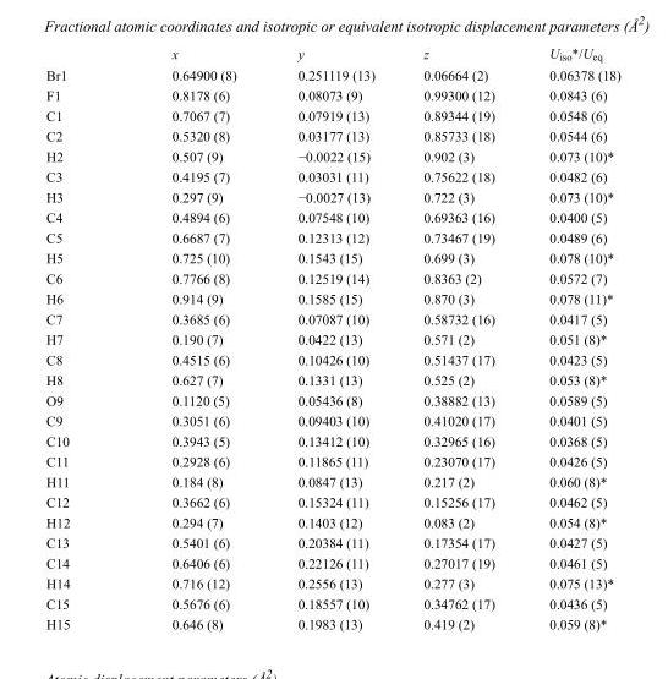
<table><thead><tr><td></td><td>x</td><td>y</td><td>z</td><td>U<sub>iso</sub>*/U<sub>eq</sub></td></tr></thead><tbody><tr><td>Br1</td><td>0.64900 (8)</td><td>0.251119 (13)</td><td>0.06664 (2)</td><td>0.06378 (18)</td></tr><tr><td>F1</td><td>0.8178 (6)</td><td>0.08073 (9)</td><td>0.99300 (12)</td><td>0.0843 (6)</td></tr><tr><td>C1</td><td>0.7067 (7)</td><td>0.07919 (13)</td><td>0.89344 (19)</td><td>0.0548 (6)</td></tr><tr><td>C2</td><td>0.5320 (8)</td><td>0.03177 (13)</td><td>0.85733 (18)</td><td>0.0544 (6)</td></tr><tr><td>H2</td><td>0.507 (9)</td><td>−0.0022 (15)</td><td>0.902 (3)</td><td>0.073 (10)*</td></tr><tr><td>C3</td><td>0.4195 (7)</td><td>0.03031 (11)</td><td>0.75622 (18)</td><td>0.0482 (6)</td></tr><tr><td>H3</td><td>0.297 (9)</td><td>−0.0027 (13)</td><td>0.722 (3)</td><td>0.073 (10)*</td></tr><tr><td>C4</td><td>0.4894 (6)</td><td>0.07548 (10)</td><td>0.69363 (16)</td><td>0.0400 (5)</td></tr><tr><td>C5</td><td>0.6687 (7)</td><td>0.12313 (12)</td><td>0.73467 (19)</td><td>0.0489 (6)</td></tr><tr><td>H5</td><td>0.725 (10)</td><td>0.1543 (15)</td><td>0.699 (3)</td><td>0.078 (10)*</td></tr><tr><td>C6</td><td>0.7766 (8)</td><td>0.12519 (14)</td><td>0.8363 (2)</td><td>0.0572 (7)</td></tr><tr><td>H6</td><td>0.914 (9)</td><td>0.1585 (15)</td><td>0.870 (3)</td><td>0.078 (11)*</td></tr><tr><td>C7</td><td>0.3685 (6)</td><td>0.07087 (10)</td><td>0.58732 (16)</td><td>0.0417 (5)</td></tr><tr><td>H7</td><td>0.190 (7)</td><td>0.0422 (13)</td><td>0.571 (2)</td><td>0.051 (8)*</td></tr><tr><td>C8</td><td>0.4515 (6)</td><td>0.10426 (10)</td><td>0.51437 (17)</td><td>0.0423 (5)</td></tr><tr><td>H8</td><td>0.627 (7)</td><td>0.1331 (13)</td><td>0.525 (2)</td><td>0.053 (8)*</td></tr><tr><td>O9</td><td>0.1120 (5)</td><td>0.05436 (8)</td><td>0.38882 (13)</td><td>0.0589 (5)</td></tr><tr><td>C9</td><td>0.3051 (6)</td><td>0.09403 (10)</td><td>0.41020 (17)</td><td>0.0401 (5)</td></tr><tr><td>C10</td><td>0.3943 (5)</td><td>0.13412 (10)</td><td>0.32965 (16)</td><td>0.0368 (5)</td></tr><tr><td>C11</td><td>0.2928 (6)</td><td>0.11865 (11)</td><td>0.23070 (17)</td><td>0.0426 (5)</td></tr><tr><td>H11</td><td>0.184 (8)</td><td>0.0847 (13)</td><td>0.217 (2)</td><td>0.060 (8)*</td></tr><tr><td>C12</td><td>0.3662 (6)</td><td>0.15324 (11)</td><td>0.15256 (17)</td><td>0.0462 (5)</td></tr><tr><td>H12</td><td>0.294 (7)</td><td>0.1403 (12)</td><td>0.083 (2)</td><td>0.054 (8)*</td></tr><tr><td>C13</td><td>0.5401 (6)</td><td>0.20384 (11)</td><td>0.17354 (17)</td><td>0.0427 (5)</td></tr><tr><td>C14</td><td>0.6406 (6)</td><td>0.22126 (11)</td><td>0.27017 (19)</td><td>0.0461 (5)</td></tr><tr><td>H14</td><td>0.716 (12)</td><td>0.2556 (13)</td><td>0.277 (3)</td><td>0.075 (13)*</td></tr><tr><td>C15</td><td>0.5676 (6)</td><td>0.18557 (10)</td><td>0.34762 (17)</td><td>0.0436 (5)</td></tr><tr><td>H15</td><td>0.646 (8)</td><td>0.1983 (13)</td><td>0.419 (2)</td><td>0.059 (8)*</td></tr></tbody></table>